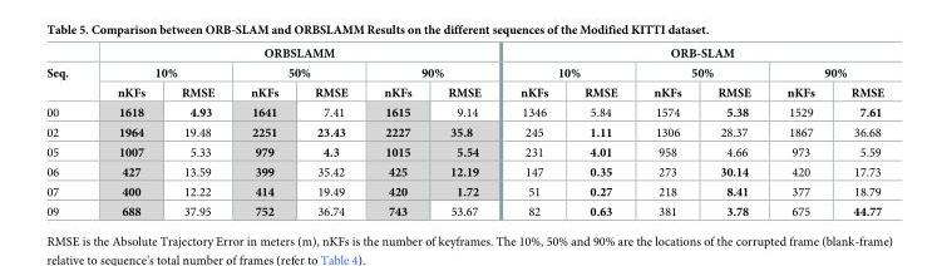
<table><thead><tr><td rowspan="3">Seq.</td><td colspan="6">ORBSLAMM</td><td colspan="6">ORB-SLAM</td></tr><tr><td colspan="2">10%</td><td colspan="2">50%</td><td colspan="2">90%</td><td colspan="2">10%</td><td colspan="2">50%</td><td colspan="2">90%</td></tr><tr><td>nKFs</td><td>RMSE</td><td>nKFs</td><td>RMSE</td><td>nKFs</td><td>RMSE</td><td>nKFs</td><td>RMSE</td><td>nKFs</td><td>RMSE</td><td>nKFs</td><td>RMSE</td></tr></thead><tbody><tr><td>00</td><td>1618</td><td>4.93</td><td>1641</td><td>7.41</td><td>1615</td><td>9.14</td><td>1346</td><td>5.84</td><td>1574</td><td>5.38</td><td>1529</td><td>7.61</td></tr><tr><td>02</td><td>1964</td><td>19.48</td><td>2251</td><td>23.43</td><td>2227</td><td>35.8</td><td>245</td><td>1.11</td><td>1306</td><td>28.37</td><td>1867</td><td>36.68</td></tr><tr><td>05</td><td>1007</td><td>5.33</td><td>979</td><td>4.3</td><td>1015</td><td>5.54</td><td>231</td><td>4.01</td><td>958</td><td>4.66</td><td>973</td><td>5.59</td></tr><tr><td>06</td><td>427</td><td>13.59</td><td>399</td><td>35.42</td><td>425</td><td>12.19</td><td>147</td><td>0.35</td><td>273</td><td>30.14</td><td>420</td><td>17.73</td></tr><tr><td>07</td><td>400</td><td>12.22</td><td>414</td><td>19.49</td><td>420</td><td>1.72</td><td>51</td><td>0.27</td><td>218</td><td>8.41</td><td>377</td><td>18.79</td></tr><tr><td>09</td><td>688</td><td>37.95</td><td>752</td><td>36.74</td><td>743</td><td>53.67</td><td>82</td><td>0.63</td><td>381</td><td>3.78</td><td>675</td><td>44.77</td></tr></tbody></table>